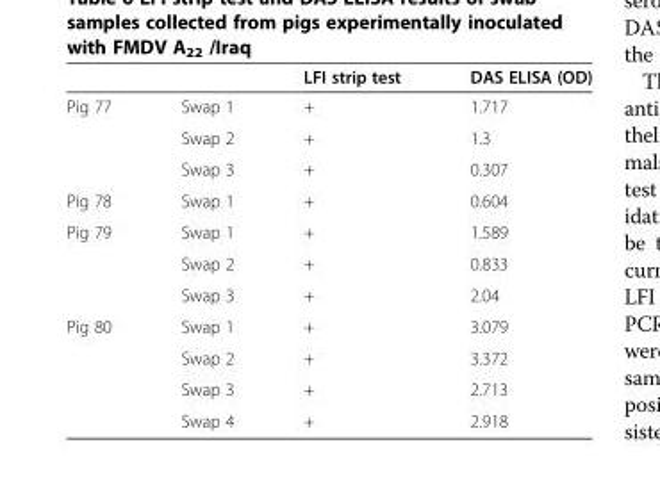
<table><thead><tr><td></td><td></td><td>LFI strip test</td><td>DAS ELISA (OD)</td></tr></thead><tbody><tr><td rowspan="3">Pig 77</td><td>Swap 1</td><td>+</td><td>1.717</td></tr><tr><td>Swap 2</td><td>+</td><td>1.3</td></tr><tr><td>Swap 3</td><td>+</td><td>0.307</td></tr><tr><td>Pig 78</td><td>Swap 1</td><td>+</td><td>0.604</td></tr><tr><td rowspan="3">Pig 79</td><td>Swap 1</td><td>+</td><td>1.589</td></tr><tr><td>Swap 2</td><td>+</td><td>0.833</td></tr><tr><td>Swap 3</td><td>+</td><td>2.04</td></tr><tr><td rowspan="4">Pig 80</td><td>Swap 1</td><td>+</td><td>3.079</td></tr><tr><td>Swap 2</td><td>+</td><td>3.372</td></tr><tr><td>Swap 3</td><td>+</td><td>2.713</td></tr><tr><td>Swap 4</td><td>+</td><td>2.918</td></tr></tbody></table>